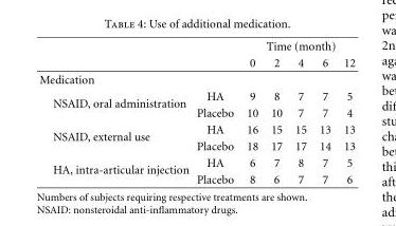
<table><thead><tr><td rowspan="2"></td><td rowspan="2"></td><td colspan="5">Time (month)</td></tr><tr><td>0</td><td>2</td><td>4</td><td>6</td><td>12</td></tr></thead><tbody><tr><td colspan="7">Medication</td></tr><tr><td rowspan="2">NSAID, oral administration</td><td>HA</td><td>9</td><td>8</td><td>7</td><td>7</td><td>5</td></tr><tr><td>Placebo</td><td>10</td><td>10</td><td>7</td><td>7</td><td>4</td></tr><tr><td rowspan="2">NSAID, external use</td><td>HA</td><td>16</td><td>15</td><td>15</td><td>13</td><td>13</td></tr><tr><td>Placebo</td><td>18</td><td>17</td><td>17</td><td>14</td><td>13</td></tr><tr><td rowspan="2">HA, intra-articular injection</td><td>HA</td><td>6</td><td>7</td><td>8</td><td>7</td><td>5</td></tr><tr><td>Placebo</td><td>8</td><td>6</td><td>7</td><td>7</td><td>6</td></tr></tbody></table>